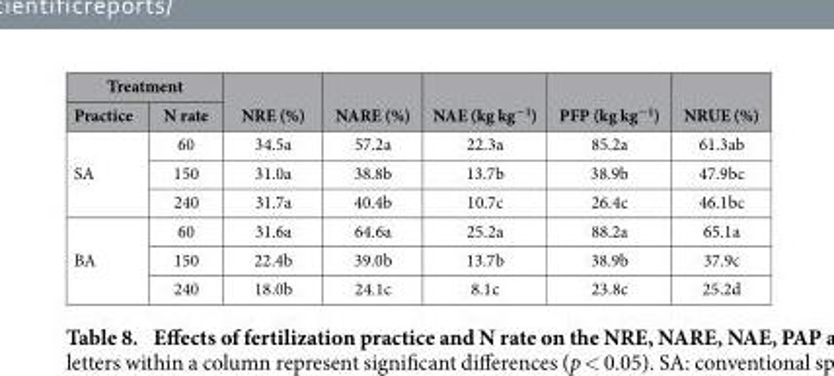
<table><thead><tr><td colspan="2">Treatment</td><td rowspan="2">NRE (%)</td><td rowspan="2">NARE (%)</td><td rowspan="2">NAE (kg kg<sup>−1</sup>)</td><td rowspan="2">PFP (kg kg<sup>−1</sup>)</td><td rowspan="2">NRUE (%)</td></tr><tr><td>Practice</td><td>N rate</td></tr></thead><tbody><tr><td rowspan="3">SA</td><td>60</td><td>34.5a</td><td>57.2a</td><td>22.3a</td><td>85.2a</td><td>61.3ab</td></tr><tr><td>150</td><td>31.0a</td><td>38.8b</td><td>13.7b</td><td>38.9b</td><td>47.9bc</td></tr><tr><td>240</td><td>31.7a</td><td>40.4b</td><td>10.7c</td><td>26.4c</td><td>46.1bc</td></tr><tr><td rowspan="3">BA</td><td>60</td><td>31.6a</td><td>64.6a</td><td>25.2a</td><td>88.2a</td><td>65.1a</td></tr><tr><td>150</td><td>22.4b</td><td>39.0b</td><td>13.7b</td><td>38.9b</td><td>37.9c</td></tr><tr><td>240</td><td>18.0b</td><td>24.1c</td><td>8.1c</td><td>23.8c</td><td>25.2d</td></tr></tbody></table>